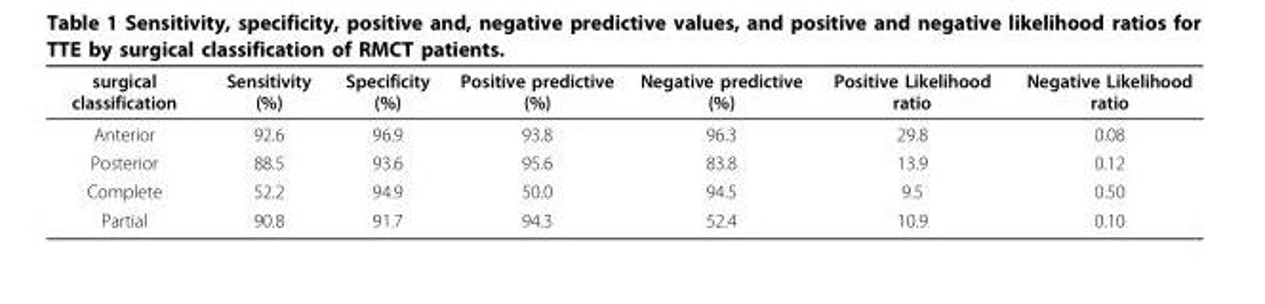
<table><thead><tr><td>surgical classification</td><td>Sensitivity (%)</td><td>Specificity (%)</td><td>Positive predictive (%)</td><td>Negative predictive (%)</td><td>Positive Likelihood ratio</td><td>Negative Likelihood ratio</td></tr></thead><tbody><tr><td>Anterior</td><td>92.6</td><td>96.9</td><td>93.8</td><td>96.3</td><td>29.8</td><td>0.08</td></tr><tr><td>Posterior</td><td>88.5</td><td>93.6</td><td>95.6</td><td>83.8</td><td>13.9</td><td>0.12</td></tr><tr><td>Complete</td><td>52.2</td><td>94.9</td><td>50.0</td><td>94.5</td><td>9.5</td><td>0.50</td></tr><tr><td>Partial</td><td>90.8</td><td>91.7</td><td>94.3</td><td>52.4</td><td>10.9</td><td>0.10</td></tr></tbody></table>